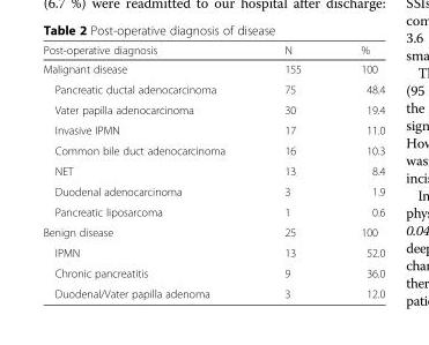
<table><thead><tr><td>Post-operative diagnosis</td><td>N</td><td>%</td></tr></thead><tbody><tr><td>Malignant disease</td><td>155</td><td>100</td></tr><tr><td>Pancreatic ductal adenocarcinoma</td><td>75</td><td>48.4</td></tr><tr><td>Vater papilla adenocarcinoma</td><td>30</td><td>19.4</td></tr><tr><td>Invasive IPMN</td><td>17</td><td>11.0</td></tr><tr><td>Common bile duct adenocarcinoma</td><td>16</td><td>10.3</td></tr><tr><td>NET</td><td>13</td><td>8.4</td></tr><tr><td>Duodenal adenocarcinoma</td><td>3</td><td>1.9</td></tr><tr><td>Pancreatic liposarcoma</td><td>1</td><td>0.6</td></tr><tr><td>Benign disease</td><td>25</td><td>100</td></tr><tr><td>IPMN</td><td>13</td><td>52.0</td></tr><tr><td>Chronic pancreatitis</td><td>9</td><td>36.0</td></tr><tr><td>Duodenal/Vater papilla adenoma</td><td>3</td><td>12.0</td></tr></tbody></table>